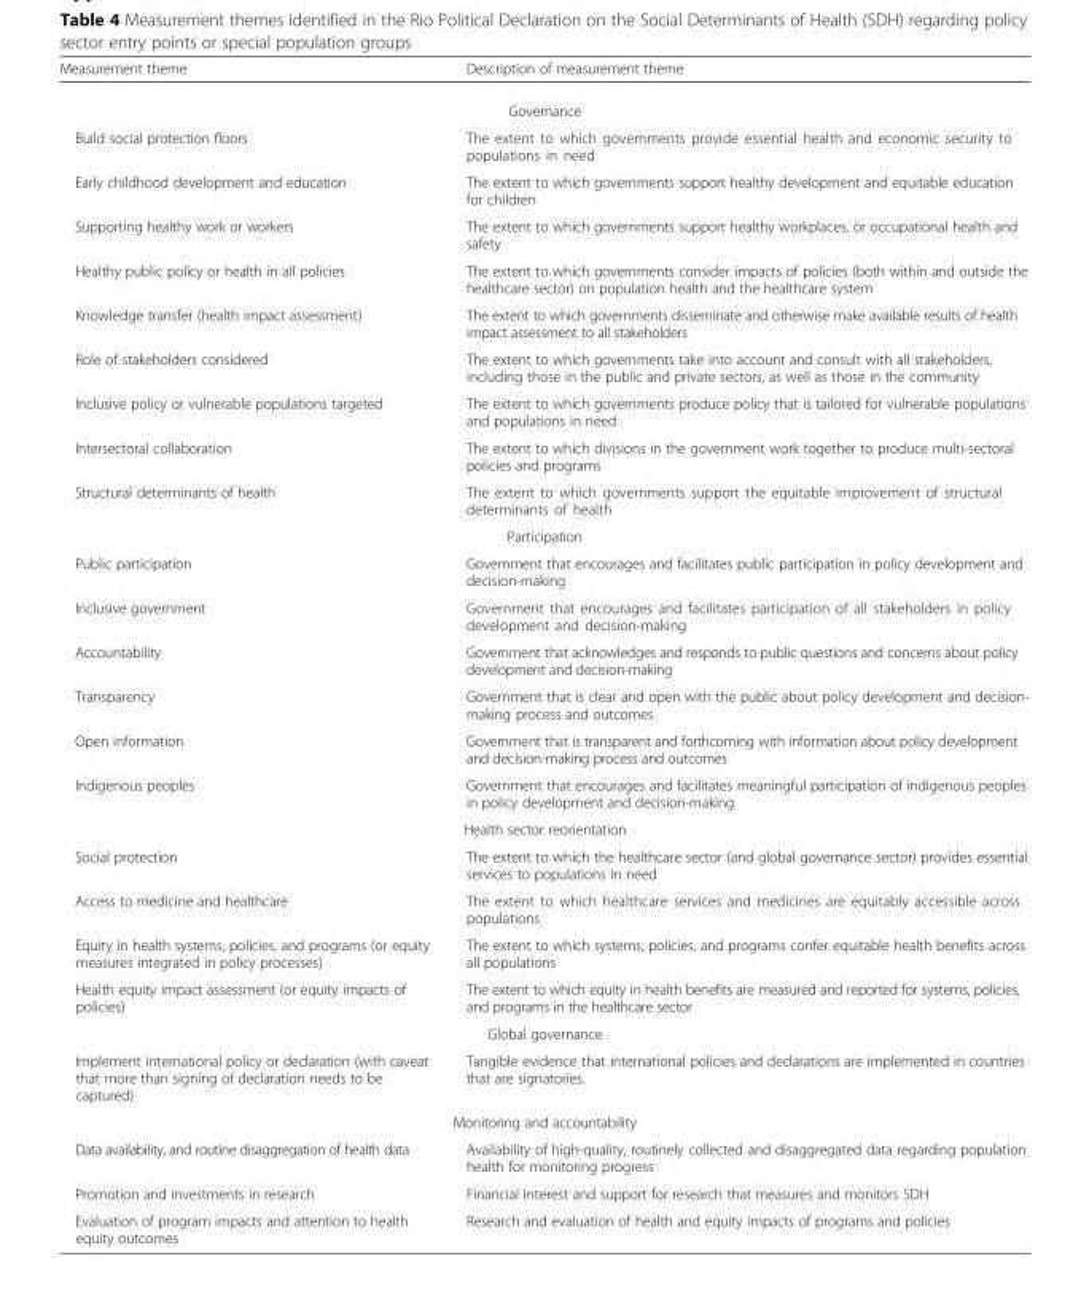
<table><thead><tr><td>Measurement theme</td><td>Description of measurement theme</td></tr></thead><tbody><tr><td colspan="2">Governance</td></tr><tr><td>Build social protection floors</td><td>The extent to which governments provide essential health and economic security to populations in need</td></tr><tr><td>Early childhood development and education</td><td>The extent to which governments support healthy development and equitable education for children</td></tr><tr><td>Supporting healthy work or workers</td><td>The extent to which governments support healthy workplaces, or occupational health and safety</td></tr><tr><td>Healthy public policy or health in all policies</td><td>The extent to which governments consider impacts of policies (both within and outside the healthcare sector) on population health and the healthcare system</td></tr><tr><td>Knowledge transfer (health impact assessment)</td><td>The extent to which governments disseminate and otherwise make available results of health impact assessment to all stakeholders</td></tr><tr><td>Role of stakeholders considered</td><td>The extent to which governments take into account and consult with all stakeholders, including those in the public and private sectors, as well as those in the community</td></tr><tr><td>Inclusive policy or vulnerable populations targeted</td><td>The extent to which governments produce policy that is tailored for vulnerable populations and populations in need</td></tr><tr><td>Intersectoral collaboration</td><td>The extent to which divisions in the government work together to produce multi-sectoral policies and programs</td></tr><tr><td>Structural determinants of health</td><td>The extent to which governments support the equitable improvement of structural determinants of health</td></tr><tr><td colspan="2">Participation</td></tr><tr><td>Public participation</td><td>Government that encourages and facilitates public participation in policy development and decision-making</td></tr><tr><td>Inclusive government</td><td>Government that encourages and facilitates participation of all stakeholders in policy development and decision-making</td></tr><tr><td>Accountability</td><td>Government that acknowledges and responds to public questions and concerns about policy development and decision-making</td></tr><tr><td>Transparency</td><td>Government that is clear and open with the public about policy development and decision- making process and outcomes</td></tr><tr><td>Open information</td><td>Government that is transparent and forthcoming with information about policy development and decision-making process and outcomes</td></tr><tr><td>Indigenous peoples</td><td>Government that encourages and facilitates meaningful participation of indigenous peoples in policy development and decision-making</td></tr><tr><td colspan="2">Health sector reorientation</td></tr><tr><td>Social protection</td><td>The extent to which the healthcare sector (and global governance sector) provides essential services to populations in need</td></tr><tr><td>Access to medicine and healthcare</td><td>The extent to which healthcare services and medicines are equitably accessible across populations</td></tr><tr><td>Equity in health systems, policies, and programs (or equity measures integrated in policy processes)</td><td>The extent to which systems, policies, and programs confer equitable health benefits across all populations</td></tr><tr><td>Health equity impact assessment (or equity impacts of policies)</td><td>The extent to which equity in health benefits are measured and reported for systems, policies, and programs in the healthcare sector</td></tr><tr><td colspan="2">Global governance</td></tr><tr><td>Implement international policy or declaration (with caveat that more than signing of declaration needs to be captured)</td><td>Tangible evidence that international policies and declarations are implemented in countries that are signatories.</td></tr><tr><td colspan="2">Monitoring and accountability</td></tr><tr><td>Data availability, and routine disaggregation of health data</td><td>Availability of high-quality, routinely collected and disaggregated data regarding population health for monitoring progress</td></tr><tr><td>Promotion and investments in research</td><td>Financial interest and support for research that measures and monitors SDH</td></tr><tr><td>Evaluation of program impacts and attention to health equity outcomes</td><td>Research and evaluation of health and equity impacts of programs and policies</td></tr></tbody></table>